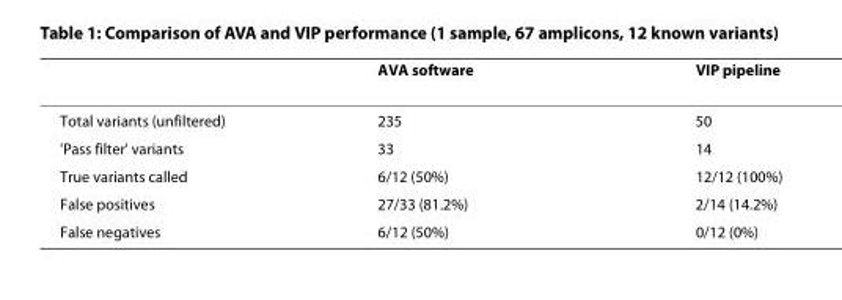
<table><thead><tr><td></td><td>AVA software</td><td>VIP pipeline</td></tr></thead><tbody><tr><td>Total variants (unfiltered)</td><td>235</td><td>50</td></tr><tr><td>&#x27;Pass filter&#x27; variants</td><td>33</td><td>14</td></tr><tr><td>True variants called</td><td>6/12 (50%)</td><td>12/12 (100%)</td></tr><tr><td>False positives</td><td>27/33 (81.2%)</td><td>2/14 (14.2%)</td></tr><tr><td>False negatives</td><td>6/12 (50%)</td><td>0/12 (0%)</td></tr></tbody></table>